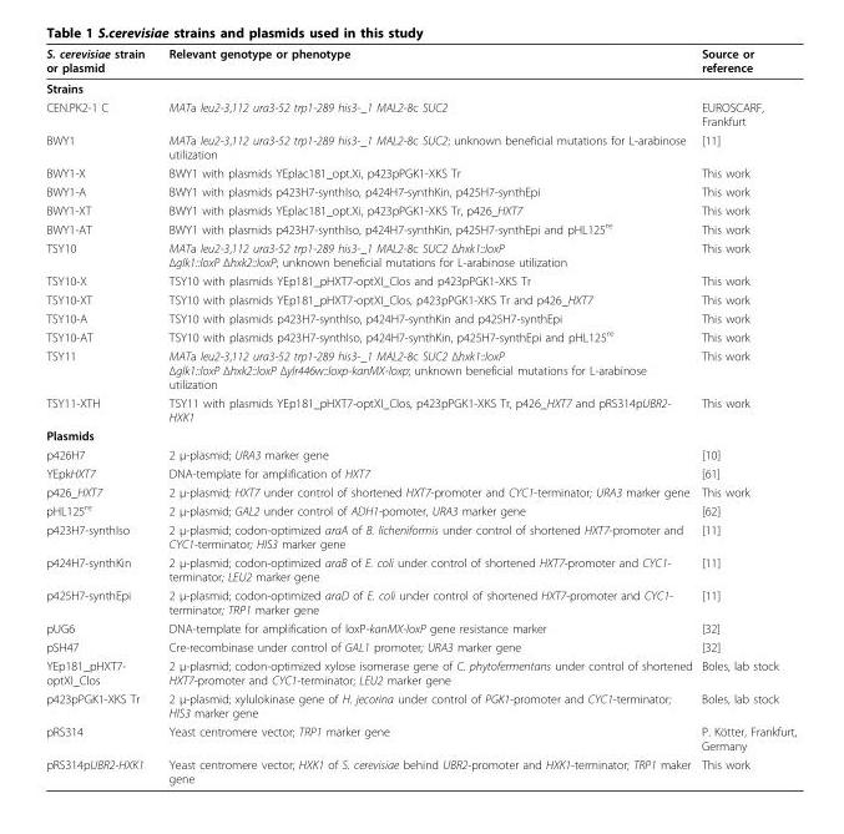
<table><thead><tr><td>S. cerevisiae strain or plasmid</td><td>Relevant genotype or phenotype</td><td>Source or reference</td></tr></thead><tbody><tr><td colspan="3">Strains</td></tr><tr><td>CEN.PK2-1 C</td><td>MATa leu2-3,112 ura3-52 trp1-289 his3-_1 MAL2-8c SUC2</td><td>EUROSCARF, Frankfurt</td></tr><tr><td>BWY1</td><td>MATa leu2-3,112 ura3-52 trp1-289 his3-_1 MAL2-8c SUC2; unknown beneficial mutations for L-arabinose utilization</td><td>[11]</td></tr><tr><td>BWY1-X</td><td>BWY1 with plasmids YEplac181_opt.Xi, p423pPGK1-XKS Tr</td><td>This work</td></tr><tr><td>BWY1-A</td><td>BWY1 with plasmids p423H7-synthIso, p424H7-synthKin, p425H7-synthEpi</td><td>This work</td></tr><tr><td>BWY1-XT</td><td>BWY1 with plasmids YEplac181_opt.Xi, p423pPGK1-XKS Tr, p426_HXT7</td><td>This work</td></tr><tr><td>BWY1-AT</td><td>BWY1 with plasmids p423H7-synthIso, p424H7-synthKin, p425H7-synthEpi and pHL125<sup>re</sup></td><td>This work</td></tr><tr><td>TSY10</td><td>MATa leu2-3,112 ura3-52 trp1-289 his3-_1 MAL2-8c SUC2 Δhxk1::loxP Δglk1::loxP Δhxk2::loxP; unknown beneficial mutations for L-arabinose utilization</td><td>This work</td></tr><tr><td>TSY10-X</td><td>TSY10 with plasmids YEp181_pHXT7-optXI_Clos and p423pPGK1-XKS Tr</td><td>This work</td></tr><tr><td>TSY10-XT</td><td>TSY10 with plasmids YEp181_pHXT7-optXI_Clos, p423pPGK1-XKS Tr and p426_HXT7</td><td>This work</td></tr><tr><td>TSY10-A</td><td>TSY10 with plasmids p423H7-synthIso, p424H7-synthKin and p425H7-synthEpi</td><td>This work</td></tr><tr><td>TSY10-AT</td><td>TSY10 with plasmids p423H7-synthIso, p424H7-synthKin, p425H7-synthEpi and pHL125<sup>re</sup></td><td>This work</td></tr><tr><td>TSY11</td><td>MATa leu2-3,112 ura3-52 trp1-289 his3-_1 MAL2-8c SUC2 Δhxk1::loxP Δglk1::loxP Δhxk2::loxP Δylr446w::loxp-kanMX-loxp; unknown beneficial mutations for L-arabinose utilization</td><td>This work</td></tr><tr><td>TSY11-XTH</td><td>TSY11 with plasmids YEp181_pHXT7-optXI_Clos, p423pPGK1-XKS Tr, p426_HXT7 and pRS314pUBR2- HXK1</td><td>This work</td></tr><tr><td colspan="3">Plasmids</td></tr><tr><td>p426H7</td><td>2 μ-plasmid; URA3 marker gene</td><td>[10]</td></tr><tr><td>YEpkHXT7</td><td>DNA-template for amplification of HXT7</td><td>[61]</td></tr><tr><td>p426_HXT7</td><td>2 μ-plasmid; HXT7 under control of shortened HXT7-promoter and CYC1-terminator; URA3 marker gene</td><td>This work</td></tr><tr><td>pHL125<sup>re</sup></td><td>2 μ-plasmid; GAL2 under control of ADH1-pomoter, URA3 marker gene</td><td>[62]</td></tr><tr><td>p423H7-synthIso</td><td>2 μ-plasmid; codon-optimized araA of B. licheniformis under control of shortened HXT7-promoter and CYC1-terminator; HIS3 marker gene</td><td>[11]</td></tr><tr><td>p424H7-synthKin</td><td>2 μ-plasmid; codon-optimized araB of E. coli under control of shortened HXT7-promoter and CYC1- terminator; LEU2 marker gene</td><td>[11]</td></tr><tr><td>p425H7-synthEpi</td><td>2 μ-plasmid; codon-optimized araD of E. coli under control of shortened HXT7-promoter and CYC1- terminator; TRP1 marker gene</td><td>[11]</td></tr><tr><td>pUG6</td><td>DNA-template for amplification of loxP-kanMX-loxP gene resistance marker</td><td>[32]</td></tr><tr><td>pSH47</td><td>Cre-recombinase under control of GAL1 promoter; URA3 marker gene</td><td>[32]</td></tr><tr><td>YEp181_pHXT7- optXI_Clos</td><td>2 μ-plasmid; codon-optimized xylose isomerase gene of C. phytofermentans under control of shortened HXT7-promoter and CYC1-terminator; LEU2 marker gene</td><td>Boles, lab stock</td></tr><tr><td>p423pPGK1-XKS Tr</td><td>2 μ-plasmid; xylulokinase gene of H. jecorina under control of PGK1-promoter and CYC1-terminator; HIS3 marker gene</td><td>Boles, lab stock</td></tr><tr><td>pRS314</td><td>Yeast centromere vector; TRP1 marker gene</td><td>P. Kötter, Frankfurt, Germany</td></tr><tr><td>pRS314pUBR2-HXK1</td><td>Yeast centromere vector; HXK1 of S. cerevisiae behind UBR2-promoter and HXK1-terminator; TRP1 maker gene</td><td>This work</td></tr></tbody></table>